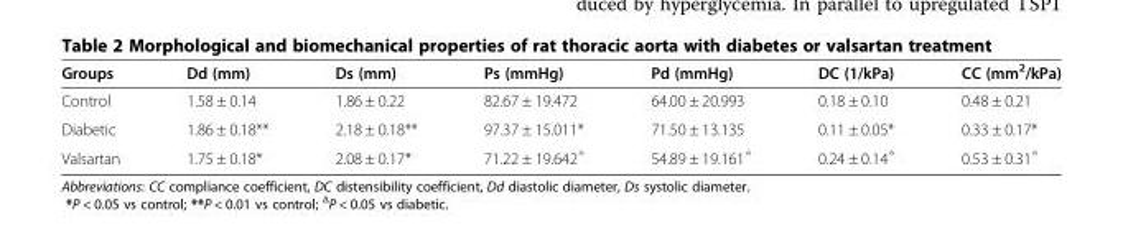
<table><thead><tr><td>Groups</td><td>Dd (mm)</td><td>Ds (mm)</td><td>Ps (mmHg)</td><td>Pd (mmHg)</td><td>DC (1/kPa)</td><td>CC (mm<sup>2</sup>/kPa)</td></tr></thead><tbody><tr><td>Control</td><td>1.58 ± 0.14</td><td>1.86 ± 0.22</td><td>82.67 ± 19.472</td><td>64.00 ± 20.993</td><td>0.18 ± 0.10</td><td>0.48 ± 0.21</td></tr><tr><td>Diabetic</td><td>1.86 ± 0.18**</td><td>2.18 ± 0.18**</td><td>97.37 ± 15.011*</td><td>71.50 ± 13.135</td><td>0.11 ± 0.05*</td><td>0.33 ± 0.17*</td></tr><tr><td>Valsartan</td><td>1.75 ± 0.18*</td><td>2.08 ± 0.17*</td><td>71.22 ± 19.642<sup>△</sup></td><td>54.89 ± 19.161<sup>△</sup></td><td>0.24 ± 0.14<sup>△</sup></td><td>0.53 ± 0.31<sup>△</sup></td></tr></tbody></table>